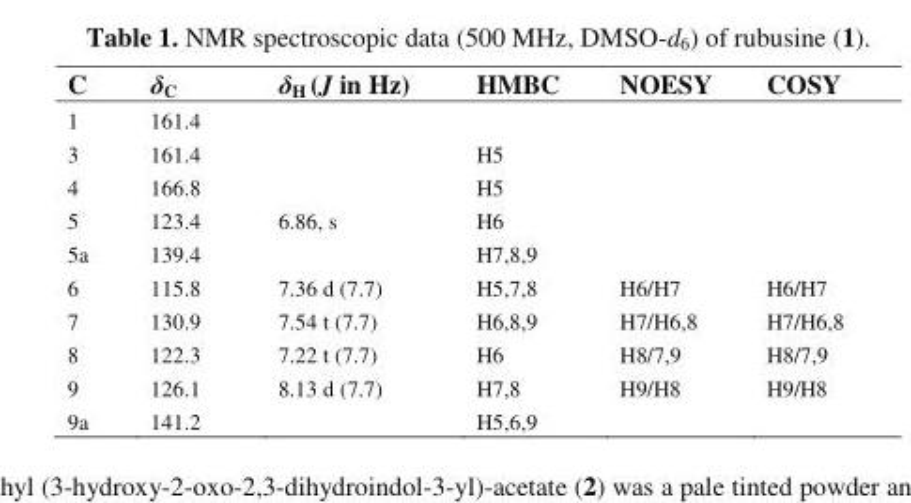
<table><thead><tr><td>C</td><td>δ<sub>C</sub></td><td>δ<sub>H</sub> (J in Hz)</td><td>HMBC</td><td>NOESY</td><td>COSY</td></tr></thead><tbody><tr><td>1</td><td>161.4</td><td></td><td></td><td></td><td></td></tr><tr><td>3</td><td>161.4</td><td></td><td>H5</td><td></td><td></td></tr><tr><td>4</td><td>166.8</td><td></td><td>H5</td><td></td><td></td></tr><tr><td>5</td><td>123.4</td><td>6.86, s</td><td>H6</td><td></td><td></td></tr><tr><td>5a</td><td>139.4</td><td></td><td>H7,8,9</td><td></td><td></td></tr><tr><td>6</td><td>115.8</td><td>7.36 d (7.7)</td><td>H5,7,8</td><td>H6/H7</td><td>H6/H7</td></tr><tr><td>7</td><td>130.9</td><td>7.54 t (7.7)</td><td>H6,8,9</td><td>H7/H6,8</td><td>H7/H6,8</td></tr><tr><td>8</td><td>122.3</td><td>7.22 t (7.7)</td><td>H6</td><td>H8/7,9</td><td>H8/7,9</td></tr><tr><td>9</td><td>126.1</td><td>8.13 d (7.7)</td><td>H7,8</td><td>H9/H8</td><td>H9/H8</td></tr><tr><td>9a</td><td>141.2</td><td></td><td>H5,6,9</td><td></td><td></td></tr></tbody></table>